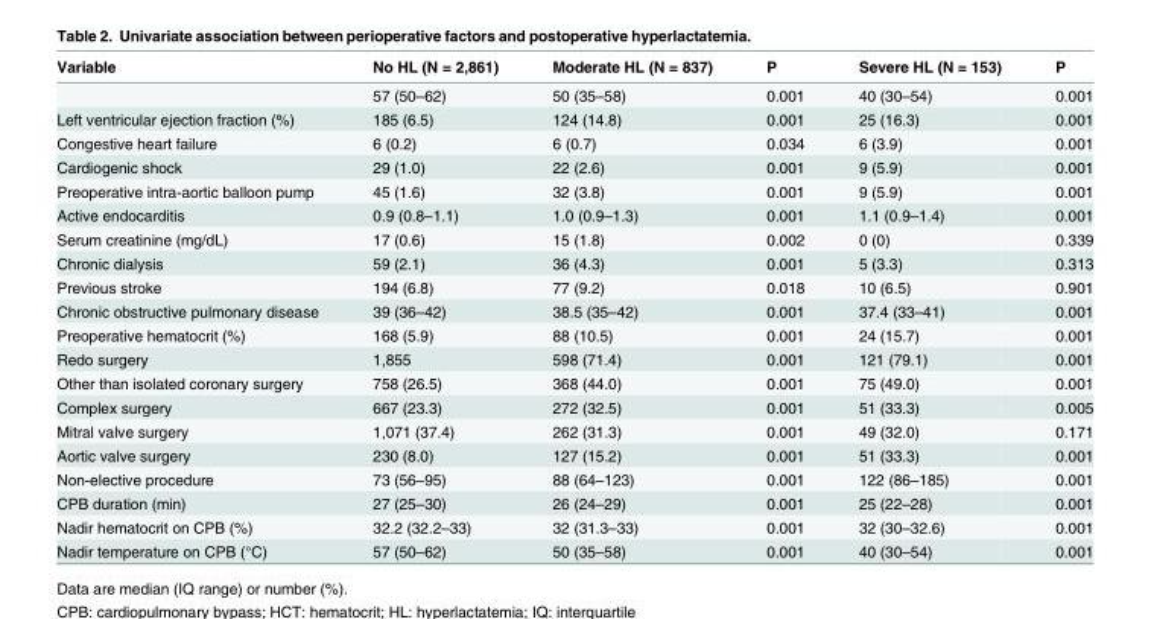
<table><thead><tr><td>Variable</td><td>No HL (N = 2,861)</td><td>Moderate HL (N = 837)</td><td>P</td><td>Severe HL (N = 153)</td><td>P</td></tr></thead><tbody><tr><td></td><td>57 (50–62)</td><td>50 (35–58)</td><td>0.001</td><td>40 (30–54)</td><td>0.001</td></tr><tr><td>Left ventricular ejection fraction (%)</td><td>185 (6.5)</td><td>124 (14.8)</td><td>0.001</td><td>25 (16.3)</td><td>0.001</td></tr><tr><td>Congestive heart failure</td><td>6 (0.2)</td><td>6 (0.7)</td><td>0.034</td><td>6 (3.9)</td><td>0.001</td></tr><tr><td>Cardiogenic shock</td><td>29 (1.0)</td><td>22 (2.6)</td><td>0.001</td><td>9 (5.9)</td><td>0.001</td></tr><tr><td>Preoperative intra-aortic balloon pump</td><td>45 (1.6)</td><td>32 (3.8)</td><td>0.001</td><td>9 (5.9)</td><td>0.001</td></tr><tr><td>Active endocarditis</td><td>0.9 (0.8–1.1)</td><td>1.0 (0.9–1.3)</td><td>0.001</td><td>1.1 (0.9–1.4)</td><td>0.001</td></tr><tr><td>Serum creatinine (mg/dL)</td><td>17 (0.6)</td><td>15 (1.8)</td><td>0.002</td><td>0 (0)</td><td>0.339</td></tr><tr><td>Chronic dialysis</td><td>59 (2.1)</td><td>36 (4.3)</td><td>0.001</td><td>5 (3.3)</td><td>0.313</td></tr><tr><td>Previous stroke</td><td>194 (6.8)</td><td>77 (9.2)</td><td>0.018</td><td>10 (6.5)</td><td>0.901</td></tr><tr><td>Chronic obstructive pulmonary disease</td><td>39 (36–42)</td><td>38.5 (35–42)</td><td>0.001</td><td>37.4 (33–41)</td><td>0.001</td></tr><tr><td>Preoperative hematocrit (%)</td><td>168 (5.9)</td><td>88 (10.5)</td><td>0.001</td><td>24 (15.7)</td><td>0.001</td></tr><tr><td>Redo surgery</td><td>1,855</td><td>598 (71.4)</td><td>0.001</td><td>121 (79.1)</td><td>0.001</td></tr><tr><td>Other than isolated coronary surgery</td><td>758 (26.5)</td><td>368 (44.0)</td><td>0.001</td><td>75 (49.0)</td><td>0.001</td></tr><tr><td>Complex surgery</td><td>667 (23.3)</td><td>272 (32.5)</td><td>0.001</td><td>51 (33.3)</td><td>0.005</td></tr><tr><td>Mitral valve surgery</td><td>1,071 (37.4)</td><td>262 (31.3)</td><td>0.001</td><td>49 (32.0)</td><td>0.171</td></tr><tr><td>Aortic valve surgery</td><td>230 (8.0)</td><td>127 (15.2)</td><td>0.001</td><td>51 (33.3)</td><td>0.001</td></tr><tr><td>Non-elective procedure</td><td>73 (56–95)</td><td>88 (64–123)</td><td>0.001</td><td>122 (86–185)</td><td>0.001</td></tr><tr><td>CPB duration (min)</td><td>27 (25–30)</td><td>26 (24–29)</td><td>0.001</td><td>25 (22–28)</td><td>0.001</td></tr><tr><td>Nadir hematocrit on CPB (%)</td><td>32.2 (32.2–33)</td><td>32 (31.3–33)</td><td>0.001</td><td>32 (30–32.6)</td><td>0.001</td></tr><tr><td>Nadir temperature on CPB (°C)</td><td>57 (50–62)</td><td>50 (35–58)</td><td>0.001</td><td>40 (30–54)</td><td>0.001</td></tr></tbody></table>